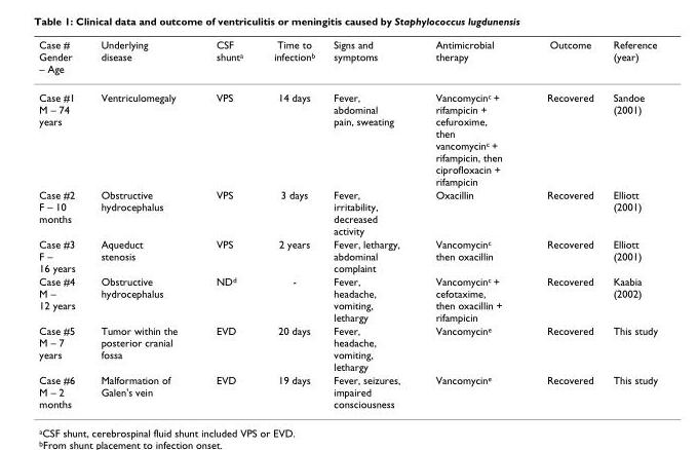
<table><thead><tr><td>Case # Gender – Age</td><td>Underlying disease</td><td>CSF shunt<sup>a</sup></td><td>Time to infection<sup>b</sup></td><td>Signs and symptoms</td><td>Antimicrobial therapy</td><td>Outcome</td><td>Reference (year)</td></tr></thead><tbody><tr><td>Case #1 M – 74 years</td><td>Ventriculomegaly</td><td>VPS</td><td>14 days</td><td>Fever, abdominal pain, sweating</td><td>Vancomycin<sup>c</sup> + rifampicin + cefuroxime, then vancomycin<sup>c</sup> + rifampicin, then ciprofloxacin + rifampicin</td><td>Recovered</td><td>Sandoe (2001)</td></tr><tr><td>Case #2 F – 10 months</td><td>Obstructive hydrocephalus</td><td>VPS</td><td>3 days</td><td>Fever, irritability, decreased activity</td><td>Oxacillin</td><td>Recovered</td><td>Elliott (2001)</td></tr><tr><td>Case #3 F – 16 years</td><td>Aqueduct stenosis</td><td>VPS</td><td>2 years</td><td>Fever, lethargy, abdominal complaint</td><td>Vancomycin<sup>c</sup> then oxacillin</td><td>Recovered</td><td>Elliott (2001)</td></tr><tr><td>Case #4 M – 12 years</td><td>Obstructive hydrocephalus</td><td>ND<sup>d</sup></td><td>-</td><td>Fever, headache, vomiting, lethargy</td><td>Vancomycin<sup>c</sup> + cefotaxime, then oxacillin + rifampicin</td><td>Recovered</td><td>Kaabia (2002)</td></tr><tr><td>Case #5 M – 7 years</td><td>Tumor within the posterior cranial fossa</td><td>EVD</td><td>20 days</td><td>Fever, headache, vomiting, lethargy</td><td>Vancomycin<sup>e</sup></td><td>Recovered</td><td>This study</td></tr><tr><td>Case #6 M – 2 months</td><td>Malformation of Galen&#x27;s vein</td><td>EVD</td><td>19 days</td><td>Fever, seizures, impaired consciousness</td><td>Vancomycin<sup>e</sup></td><td>Recovered</td><td>This study</td></tr></tbody></table>